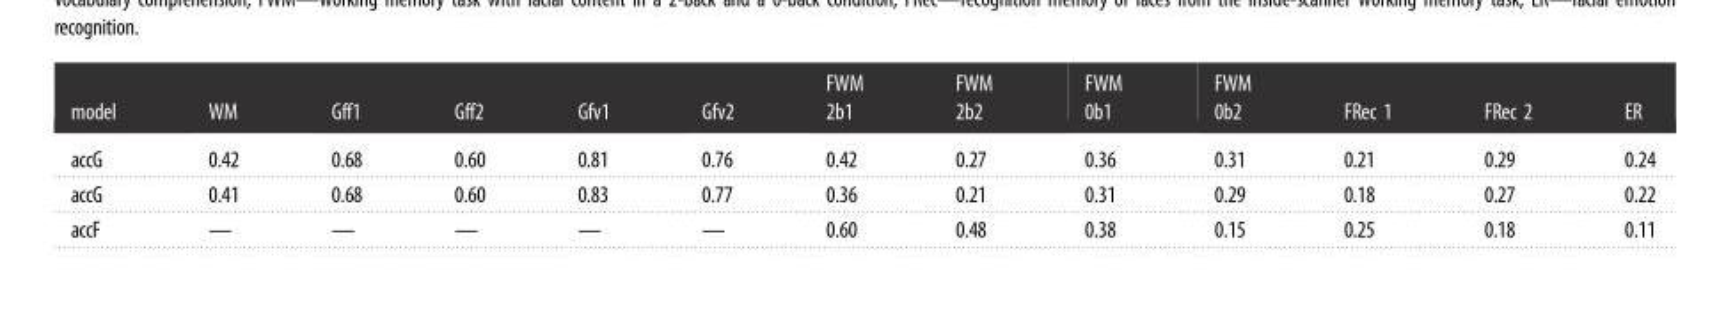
<table><thead><tr><td>model</td><td>WM</td><td>Gff1</td><td>Gff2</td><td>Gfv1</td><td>Gfv2</td><td>FWM 2b1</td><td>FWM 2b2</td><td>FWM 0b1</td><td>FWM 0b2</td><td>FRec 1</td><td>FRec 2</td><td>ER</td></tr></thead><tbody><tr><td>accG</td><td>0.42</td><td>0.68</td><td>0.60</td><td>0.81</td><td>0.76</td><td>0.42</td><td>0.27</td><td>0.36</td><td>0.31</td><td>0.21</td><td>0.29</td><td>0.24</td></tr><tr><td>accG</td><td>0.41</td><td>0.68</td><td>0.60</td><td>0.83</td><td>0.77</td><td>0.36</td><td>0.21</td><td>0.31</td><td>0.29</td><td>0.18</td><td>0.27</td><td>0.22</td></tr><tr><td>accF</td><td>—</td><td>—</td><td>—</td><td>—</td><td>—</td><td>0.60</td><td>0.48</td><td>0.38</td><td>0.15</td><td>0.25</td><td>0.18</td><td>0.11</td></tr></tbody></table>